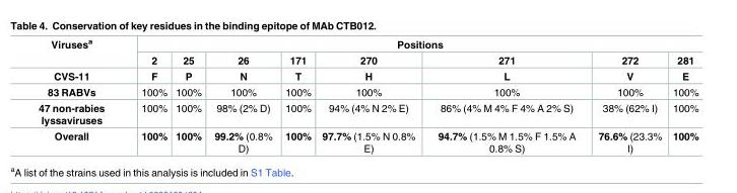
<table><thead><tr><td rowspan="3">Viruses<sup>a</sup> CVS-11</td><td colspan="8">Positions</td></tr><tr><td rowspan="2">2 F</td><td rowspan="2">25 P</td><td rowspan="2">26 N</td><td rowspan="2">171 T</td><td rowspan="2">270 H</td><td rowspan="2">271 L</td><td rowspan="2">272 V</td><td rowspan="2">281 E</td></tr><tr></tr></thead><tbody><tr><td>83 RABVs</td><td>100%</td><td>100%</td><td>100%</td><td>100%</td><td>100%</td><td>100%</td><td>100%</td><td>100%</td></tr><tr><td>47 non-rabies lyssaviruses</td><td>100%</td><td>100%</td><td>98% (2% D)</td><td>100%</td><td>94% (4% N 2% E)</td><td>86% (4% M 4% F 4% A 2% S)</td><td>38% (62% I)</td><td>100%</td></tr><tr><td>Overall</td><td>100%</td><td>100%</td><td>99.2% (0.8% D)</td><td>100%</td><td>97.7% (1.5% N 0.8% E)</td><td>94.7% (1.5% M 1.5% F 1.5% A 0.8% S)</td><td>76.6% (23.3% I)</td><td>100%</td></tr></tbody></table>